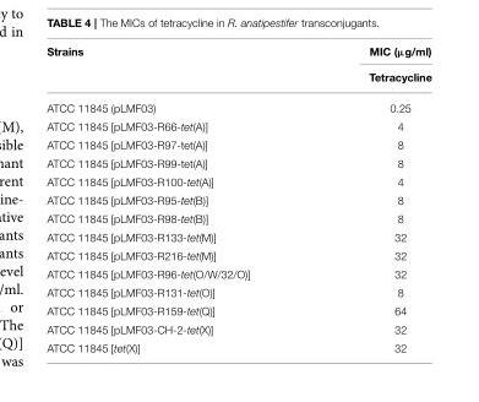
<table><thead><tr><td rowspan="2">Strains</td><td rowspan="2">MIC (µg/ml) Tetracycline</td></tr><tr></tr></thead><tbody><tr><td>ATCC 11845 (pLMF03)</td><td>0.25</td></tr><tr><td>ATCC 11845 [pLMF03-R66-tet(A)]</td><td>4</td></tr><tr><td>ATCC 11845 [pLMF03-R97-tet(A)]</td><td>8</td></tr><tr><td>ATCC 11845 [pLMF03-R99-tet(A)]</td><td>8</td></tr><tr><td>ATCC 11845 [pLMF03-R100-tet(A)]</td><td>4</td></tr><tr><td>ATCC 11845 [pLMF03-R95-tet(B)]</td><td>8</td></tr><tr><td>ATCC 11845 [pLMF03-R98-tet(B)]</td><td>8</td></tr><tr><td>ATCC 11845 [pLMF03-R133-tet(M)]</td><td>32</td></tr><tr><td>ATCC 11845 [pLMF03-R216-tet(M)]</td><td>32</td></tr><tr><td>ATCC 11845 [pLMF03-R96-tet(O/W/32/O)]</td><td>32</td></tr><tr><td>ATCC 11845 [pLMF03-R131-tet(O)]</td><td>8</td></tr><tr><td>ATCC 11845 [pLMF03-R159-tet(Q)]</td><td>64</td></tr><tr><td>ATCC 11845 [pLMF03-CH-2-tet(X)]</td><td>32</td></tr><tr><td>ATCC 11845 [tet(X)]</td><td>32</td></tr></tbody></table>